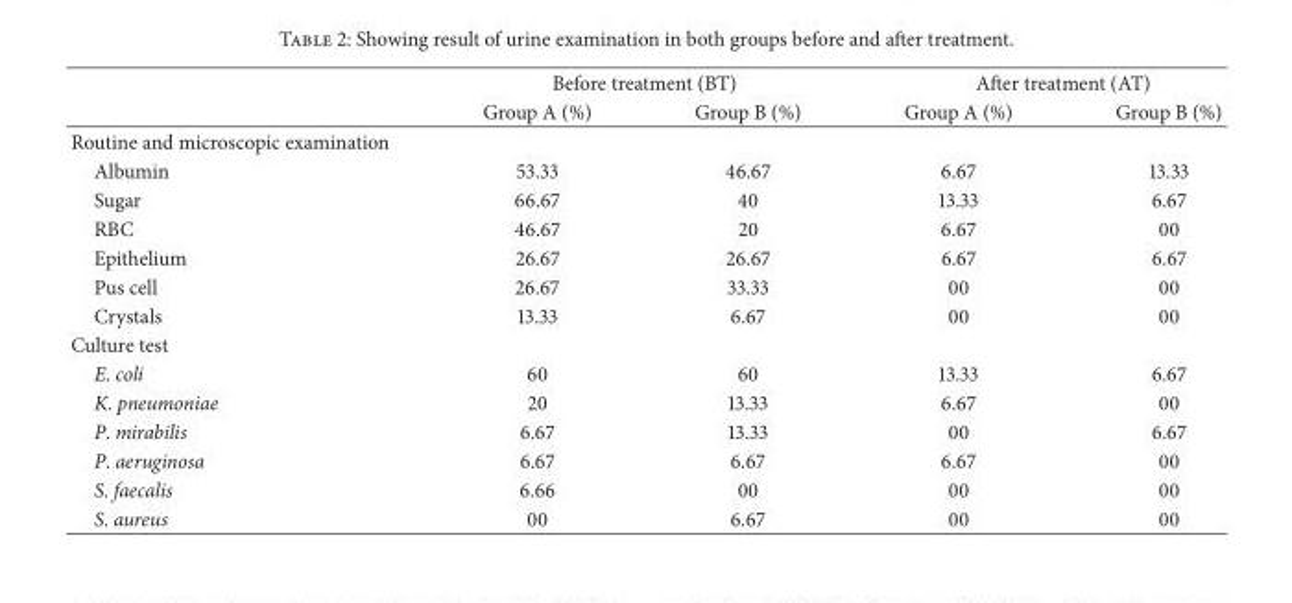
<table><thead><tr><td rowspan="2"></td><td colspan="2">Before treatment (BT)</td><td colspan="2">After treatment (AT)</td></tr><tr><td>Group A (%)</td><td>Group B (%)</td><td>Group A (%)</td><td>Group B (%)</td></tr></thead><tbody><tr><td colspan="5">Routine and microscopic examination</td></tr><tr><td>Albumin</td><td>53.33</td><td>46.67</td><td>6.67</td><td>13.33</td></tr><tr><td>Sugar</td><td>66.67</td><td>40</td><td>13.33</td><td>6.67</td></tr><tr><td>RBC</td><td>46.67</td><td>20</td><td>6.67</td><td>00</td></tr><tr><td>Epithelium</td><td>26.67</td><td>26.67</td><td>6.67</td><td>6.67</td></tr><tr><td>Pus cell</td><td>26.67</td><td>33.33</td><td>00</td><td>00</td></tr><tr><td>Crystals</td><td>13.33</td><td>6.67</td><td>00</td><td>00</td></tr><tr><td colspan="5">Culture test</td></tr><tr><td>E. coli</td><td>60</td><td>60</td><td>13.33</td><td>6.67</td></tr><tr><td>K. pneumoniae</td><td>20</td><td>13.33</td><td>6.67</td><td>00</td></tr><tr><td>P. mirabilis</td><td>6.67</td><td>13.33</td><td>00</td><td>6.67</td></tr><tr><td>P. aeruginosa</td><td>6.67</td><td>6.67</td><td>6.67</td><td>00</td></tr><tr><td>S. faecalis</td><td>6.66</td><td>00</td><td>00</td><td>00</td></tr><tr><td>S. aureus</td><td>00</td><td>6.67</td><td>00</td><td>00</td></tr></tbody></table>